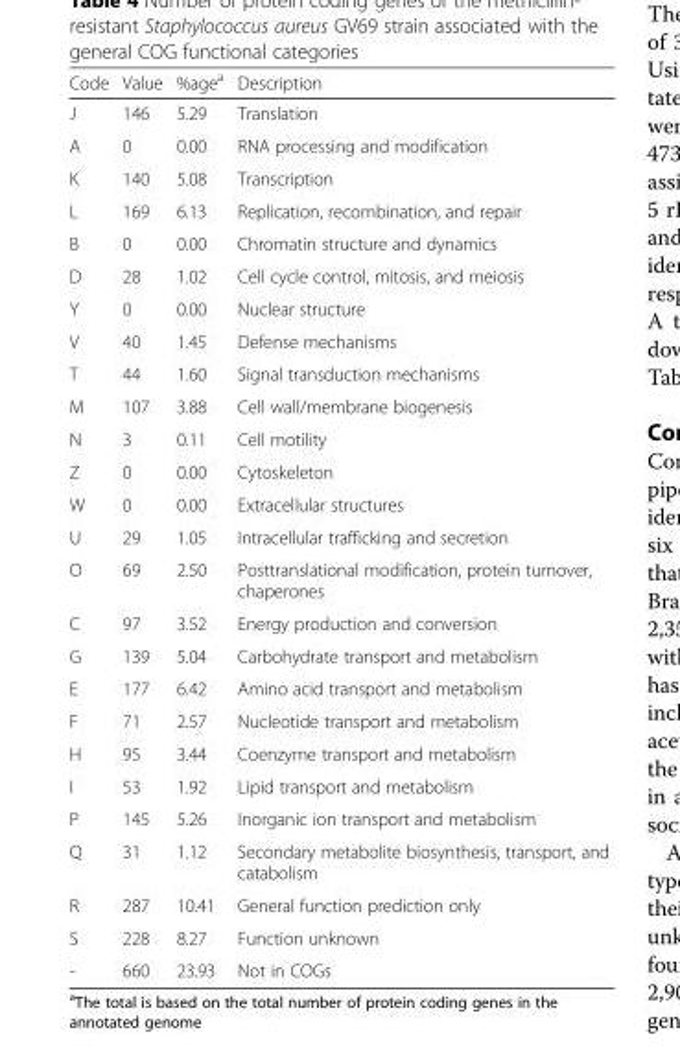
<table><thead><tr><td>Code</td><td>Value</td><td>%age<sup>a</sup></td><td>Description</td></tr></thead><tbody><tr><td>J</td><td>146</td><td>5.29</td><td>Translation</td></tr><tr><td>A</td><td>0</td><td>0.00</td><td>RNA processing and modification</td></tr><tr><td>K</td><td>140</td><td>5.08</td><td>Transcription</td></tr><tr><td>L</td><td>169</td><td>6.13</td><td>Replication, recombination, and repair</td></tr><tr><td>B</td><td>0</td><td>0.00</td><td>Chromatin structure and dynamics</td></tr><tr><td>D</td><td>28</td><td>1.02</td><td>Cell cycle control, mitosis, and meiosis</td></tr><tr><td>Y</td><td>0</td><td>0.00</td><td>Nuclear structure</td></tr><tr><td>V</td><td>40</td><td>1.45</td><td>Defense mechanisms</td></tr><tr><td>T</td><td>44</td><td>1.60</td><td>Signal transduction mechanisms</td></tr><tr><td>M</td><td>107</td><td>3.88</td><td>Cell wall/membrane biogenesis</td></tr><tr><td>N</td><td>3</td><td>0.11</td><td>Cell motility</td></tr><tr><td>Z</td><td>0</td><td>0.00</td><td>Cytoskeleton</td></tr><tr><td>W</td><td>0</td><td>0.00</td><td>Extracellular structures</td></tr><tr><td>U</td><td>29</td><td>1.05</td><td>Intracellular trafficking and secretion</td></tr><tr><td>O</td><td>69</td><td>2.50</td><td>Posttranslational modification, protein turnover, chaperones</td></tr><tr><td>C</td><td>97</td><td>3.52</td><td>Energy production and conversion</td></tr><tr><td>G</td><td>139</td><td>5.04</td><td>Carbohydrate transport and metabolism</td></tr><tr><td>E</td><td>177</td><td>6.42</td><td>Amino acid transport and metabolism</td></tr><tr><td>F</td><td>71</td><td>2.57</td><td>Nucleotide transport and metabolism</td></tr><tr><td>H</td><td>95</td><td>3.44</td><td>Coenzyme transport and metabolism</td></tr><tr><td>I</td><td>53</td><td>1.92</td><td>Lipid transport and metabolism</td></tr><tr><td>P</td><td>145</td><td>5.26</td><td>Inorganic ion transport and metabolism</td></tr><tr><td>Q</td><td>31</td><td>1.12</td><td>Secondary metabolite biosynthesis, transport, and catabolism</td></tr><tr><td>R</td><td>287</td><td>10.41</td><td>General function prediction only</td></tr><tr><td>S</td><td>228</td><td>8.27</td><td>Function unknown</td></tr><tr><td>-</td><td>660</td><td>23.93</td><td>Not in COGs</td></tr></tbody></table>